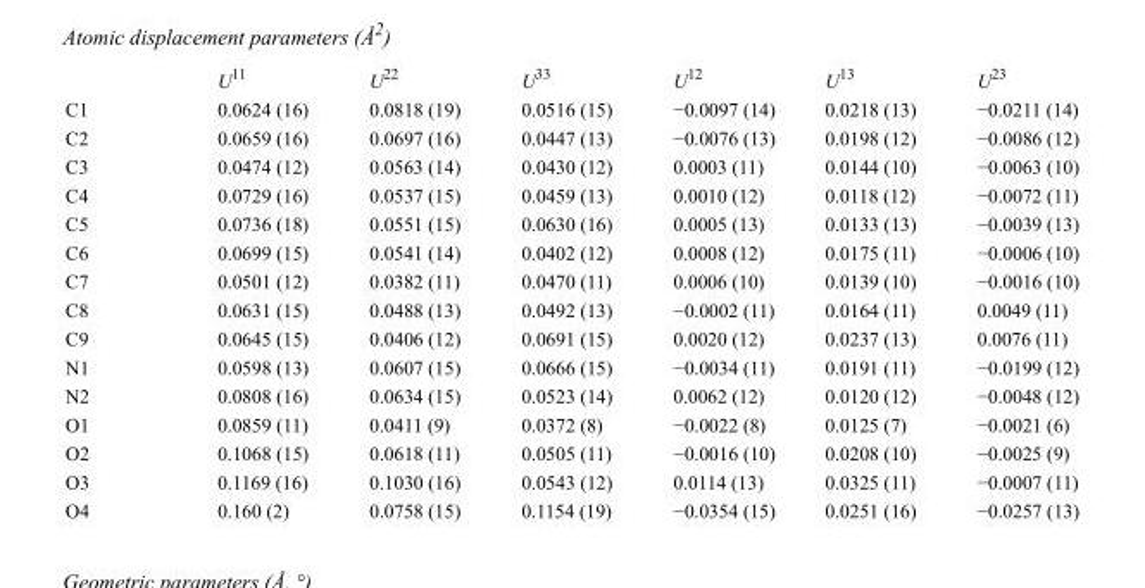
<table><thead><tr><td></td><td>U<sup>11</sup></td><td>U<sup>22</sup></td><td>U<sup>33</sup></td><td>U<sup>12</sup></td><td>U<sup>13</sup></td><td>U<sup>23</sup></td></tr></thead><tbody><tr><td>C1</td><td>0.0624 (16)</td><td>0.0818 (19)</td><td>0.0516 (15)</td><td>−0.0097 (14)</td><td>0.0218 (13)</td><td>−0.0211 (14)</td></tr><tr><td>C2</td><td>0.0659 (16)</td><td>0.0697 (16)</td><td>0.0447 (13)</td><td>−0.0076 (13)</td><td>0.0198 (12)</td><td>−0.0086 (12)</td></tr><tr><td>C3</td><td>0.0474 (12)</td><td>0.0563 (14)</td><td>0.0430 (12)</td><td>0.0003 (11)</td><td>0.0144 (10)</td><td>−0.0063 (10)</td></tr><tr><td>C4</td><td>0.0729 (16)</td><td>0.0537 (15)</td><td>0.0459 (13)</td><td>0.0010 (12)</td><td>0.0118 (12)</td><td>−0.0072 (11)</td></tr><tr><td>C5</td><td>0.0736 (18)</td><td>0.0551 (15)</td><td>0.0630 (16)</td><td>0.0005 (13)</td><td>0.0133 (13)</td><td>−0.0039 (13)</td></tr><tr><td>C6</td><td>0.0699 (15)</td><td>0.0541 (14)</td><td>0.0402 (12)</td><td>0.0008 (12)</td><td>0.0175 (11)</td><td>−0.0006 (10)</td></tr><tr><td>C7</td><td>0.0501 (12)</td><td>0.0382 (11)</td><td>0.0470 (11)</td><td>0.0006 (10)</td><td>0.0139 (10)</td><td>−0.0016 (10)</td></tr><tr><td>C8</td><td>0.0631 (15)</td><td>0.0488 (13)</td><td>0.0492 (13)</td><td>−0.0002 (11)</td><td>0.0164 (11)</td><td>0.0049 (11)</td></tr><tr><td>C9</td><td>0.0645 (15)</td><td>0.0406 (12)</td><td>0.0691 (15)</td><td>0.0020 (12)</td><td>0.0237 (13)</td><td>0.0076 (11)</td></tr><tr><td>N1</td><td>0.0598 (13)</td><td>0.0607 (15)</td><td>0.0666 (15)</td><td>−0.0034 (11)</td><td>0.0191 (11)</td><td>−0.0199 (12)</td></tr><tr><td>N2</td><td>0.0808 (16)</td><td>0.0634 (15)</td><td>0.0523 (14)</td><td>0.0062 (12)</td><td>0.0120 (12)</td><td>−0.0048 (12)</td></tr><tr><td>O1</td><td>0.0859 (11)</td><td>0.0411 (9)</td><td>0.0372 (8)</td><td>−0.0022 (8)</td><td>0.0125 (7)</td><td>−0.0021 (6)</td></tr><tr><td>O2</td><td>0.1068 (15)</td><td>0.0618 (11)</td><td>0.0505 (11)</td><td>−0.0016 (10)</td><td>0.0208 (10)</td><td>−0.0025 (9)</td></tr><tr><td>O3</td><td>0.1169 (16)</td><td>0.1030 (16)</td><td>0.0543 (12)</td><td>0.0114 (13)</td><td>0.0325 (11)</td><td>−0.0007 (11)</td></tr><tr><td>O4</td><td>0.160 (2)</td><td>0.0758 (15)</td><td>0.1154 (19)</td><td>−0.0354 (15)</td><td>0.0251 (16)</td><td>−0.0257 (13)</td></tr></tbody></table>